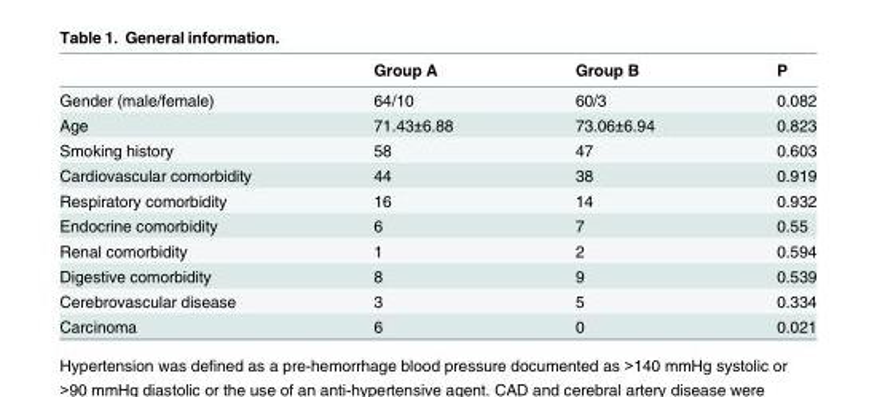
<table><thead><tr><td></td><td>Group A</td><td>Group B</td><td>P</td></tr></thead><tbody><tr><td>Gender (male/female)</td><td>64/10</td><td>60/3</td><td>0.082</td></tr><tr><td>Age</td><td>71.43±6.88</td><td>73.06±6.94</td><td>0.823</td></tr><tr><td>Smoking history</td><td>58</td><td>47</td><td>0.603</td></tr><tr><td>Cardiovascular comorbidity</td><td>44</td><td>38</td><td>0.919</td></tr><tr><td>Respiratory comorbidity</td><td>16</td><td>14</td><td>0.932</td></tr><tr><td>Endocrine comorbidity</td><td>6</td><td>7</td><td>0.55</td></tr><tr><td>Renal comorbidity</td><td>1</td><td>2</td><td>0.594</td></tr><tr><td>Digestive comorbidity</td><td>8</td><td>9</td><td>0.539</td></tr><tr><td>Cerebrovascular disease</td><td>3</td><td>5</td><td>0.334</td></tr><tr><td>Carcinoma</td><td>6</td><td>0</td><td>0.021</td></tr></tbody></table>